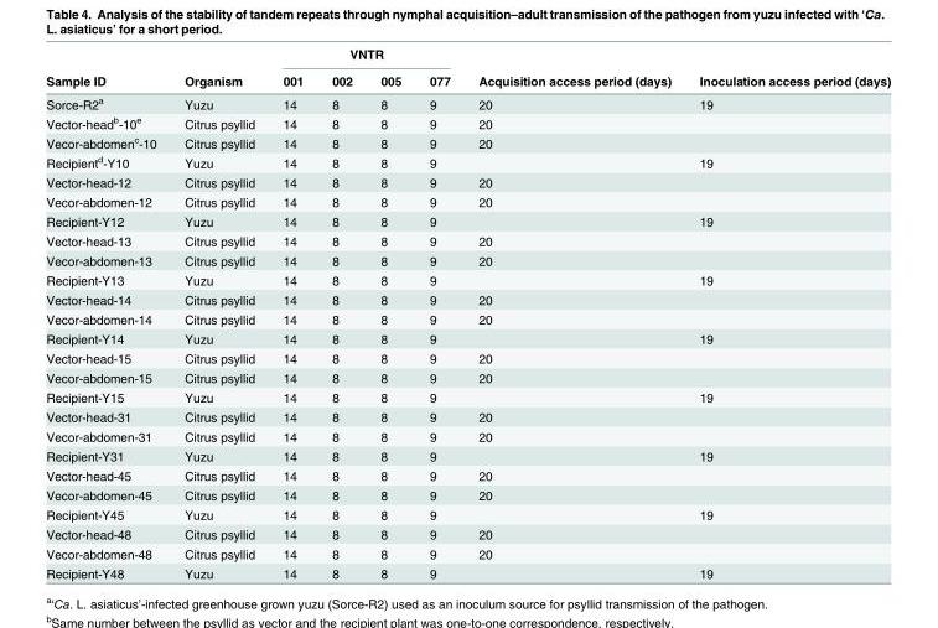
<table><thead><tr><td rowspan="2">Sample ID</td><td rowspan="2">Organism</td><td colspan="4">VNTR</td><td rowspan="2">Acquisition access period (days)</td><td rowspan="2">Inoculation access period (days)</td></tr><tr><td>001</td><td>002</td><td>005</td><td>077</td></tr></thead><tbody><tr><td>Sorce-R2<sup>a</sup></td><td>Yuzu</td><td>14</td><td>8</td><td>8</td><td>9</td><td>20</td><td>19</td></tr><tr><td>Vector-head<sup>b</sup>-10<sup>e</sup></td><td>Citrus psyllid</td><td>14</td><td>8</td><td>8</td><td>9</td><td>20</td><td></td></tr><tr><td>Vecor-abdomen<sup>c</sup>-10</td><td>Citrus psyllid</td><td>14</td><td>8</td><td>8</td><td>9</td><td>20</td><td></td></tr><tr><td>Recipient<sup>d</sup>-Y10</td><td>Yuzu</td><td>14</td><td>8</td><td>8</td><td>9</td><td></td><td>19</td></tr><tr><td>Vector-head-12</td><td>Citrus psyllid</td><td>14</td><td>8</td><td>8</td><td>9</td><td>20</td><td></td></tr><tr><td>Vecor-abdomen-12</td><td>Citrus psyllid</td><td>14</td><td>8</td><td>8</td><td>9</td><td>20</td><td></td></tr><tr><td>Recipient-Y12</td><td>Yuzu</td><td>14</td><td>8</td><td>8</td><td>9</td><td></td><td>19</td></tr><tr><td>Vector-head-13</td><td>Citrus psyllid</td><td>14</td><td>8</td><td>8</td><td>9</td><td>20</td><td></td></tr><tr><td>Vecor-abdomen-13</td><td>Citrus psyllid</td><td>14</td><td>8</td><td>8</td><td>9</td><td>20</td><td></td></tr><tr><td>Recipient-Y13</td><td>Yuzu</td><td>14</td><td>8</td><td>8</td><td>9</td><td></td><td>19</td></tr><tr><td>Vector-head-14</td><td>Citrus psyllid</td><td>14</td><td>8</td><td>8</td><td>9</td><td>20</td><td></td></tr><tr><td>Vecor-abdomen-14</td><td>Citrus psyllid</td><td>14</td><td>8</td><td>8</td><td>9</td><td>20</td><td></td></tr><tr><td>Recipient-Y14</td><td>Yuzu</td><td>14</td><td>8</td><td>8</td><td>9</td><td></td><td>19</td></tr><tr><td>Vector-head-15</td><td>Citrus psyllid</td><td>14</td><td>8</td><td>8</td><td>9</td><td>20</td><td></td></tr><tr><td>Vecor-abdomen-15</td><td>Citrus psyllid</td><td>14</td><td>8</td><td>8</td><td>9</td><td>20</td><td></td></tr><tr><td>Recipient-Y15</td><td>Yuzu</td><td>14</td><td>8</td><td>8</td><td>9</td><td></td><td>19</td></tr><tr><td>Vector-head-31</td><td>Citrus psyllid</td><td>14</td><td>8</td><td>8</td><td>9</td><td>20</td><td></td></tr><tr><td>Vecor-abdomen-31</td><td>Citrus psyllid</td><td>14</td><td>8</td><td>8</td><td>9</td><td>20</td><td></td></tr><tr><td>Recipient-Y31</td><td>Yuzu</td><td>14</td><td>8</td><td>8</td><td>9</td><td></td><td>19</td></tr><tr><td>Vector-head-45</td><td>Citrus psyllid</td><td>14</td><td>8</td><td>8</td><td>9</td><td>20</td><td></td></tr><tr><td>Vecor-abdomen-45</td><td>Citrus psyllid</td><td>14</td><td>8</td><td>8</td><td>9</td><td>20</td><td></td></tr><tr><td>Recipient-Y45</td><td>Yuzu</td><td>14</td><td>8</td><td>8</td><td>9</td><td></td><td>19</td></tr><tr><td>Vector-head-48</td><td>Citrus psyllid</td><td>14</td><td>8</td><td>8</td><td>9</td><td>20</td><td></td></tr><tr><td>Vecor-abdomen-48</td><td>Citrus psyllid</td><td>14</td><td>8</td><td>8</td><td>9</td><td>20</td><td></td></tr><tr><td>Recipient-Y48</td><td>Yuzu</td><td>14</td><td>8</td><td>8</td><td>9</td><td></td><td>19</td></tr></tbody></table>